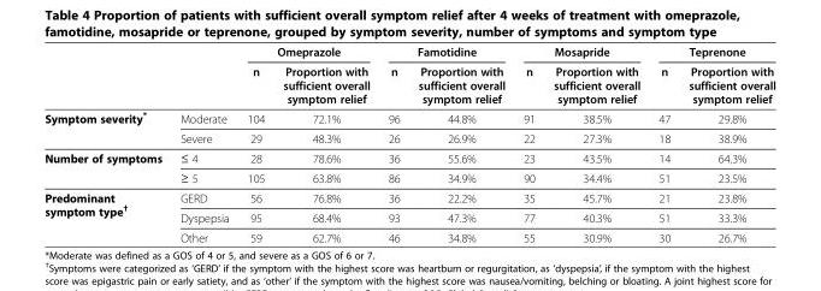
<table><thead><tr><td rowspan="2"></td><td rowspan="2"></td><td colspan="2">Omeprazole</td><td colspan="2">Famotidine</td><td colspan="2">Mosapride</td><td colspan="2">Teprenone</td></tr><tr><td>n</td><td>Proportion with sufficient overall symptom relief</td><td>n</td><td>Proportion with sufficient overall symptom relief</td><td>n</td><td>Proportion with sufficient overall symptom relief</td><td>n</td><td>Proportion with sufficient overall symptom relief</td></tr></thead><tbody><tr><td rowspan="2">Symptom severity*</td><td>Moderate</td><td>104</td><td>72.1%</td><td>96</td><td>44.8%</td><td>91</td><td>38.5%</td><td>47</td><td>29.8%</td></tr><tr><td>Severe</td><td>29</td><td>48.3%</td><td>26</td><td>26.9%</td><td>22</td><td>27.3%</td><td>18</td><td>38.9%</td></tr><tr><td rowspan="2">Number of symptoms</td><td>≤ 4</td><td>28</td><td>78.6%</td><td>36</td><td>55.6%</td><td>23</td><td>43.5%</td><td>14</td><td>64.3%</td></tr><tr><td>≥ 5</td><td>105</td><td>63.8%</td><td>86</td><td>34.9%</td><td>90</td><td>34.4%</td><td>51</td><td>23.5%</td></tr><tr><td rowspan="3">Predominant symptom type<sup>†</sup></td><td>GERD</td><td>56</td><td>76.8%</td><td>36</td><td>22.2%</td><td>35</td><td>45.7%</td><td>21</td><td>23.8%</td></tr><tr><td>Dyspepsia</td><td>95</td><td>68.4%</td><td>93</td><td>47.3%</td><td>77</td><td>40.3%</td><td>51</td><td>33.3%</td></tr><tr><td>Other</td><td>59</td><td>62.7%</td><td>46</td><td>34.8%</td><td>55</td><td>30.9%</td><td>30</td><td>26.7%</td></tr></tbody></table>